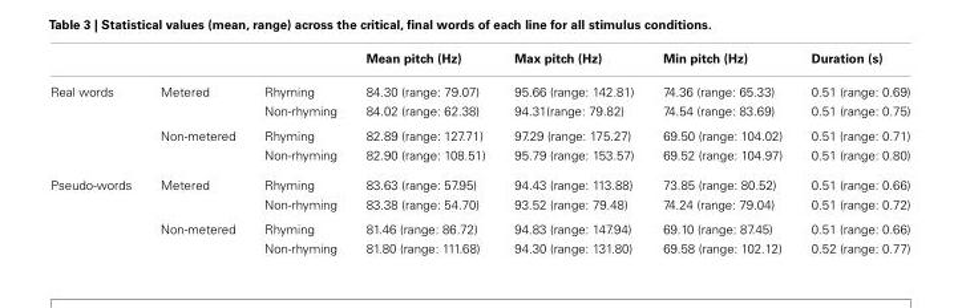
<table><thead><tr><td></td><td></td><td></td><td>Mean pitch (Hz)</td><td>Max pitch (Hz)</td><td>Min pitch (Hz)</td><td>Duration (s)</td></tr></thead><tbody><tr><td rowspan="4">Real words</td><td>Metered</td><td>Rhyming</td><td>84.30 (range: 79.07)</td><td>95.66 (range: 142.81)</td><td>74.36 (range: 65.33)</td><td>0.51 (range: 0.69)</td></tr><tr><td></td><td>Non-rhyming</td><td>84.02 (range: 62.38)</td><td>94.31(range: 79.82)</td><td>74.54 (range: 83.69)</td><td>0.51 (range: 0.75)</td></tr><tr><td>Non-metered</td><td>Rhyming</td><td>82.89 (range: 127.71)</td><td>97.29 (range: 175.27)</td><td>69.50 (range: 104.02)</td><td>0.51 (range: 0.71)</td></tr><tr><td></td><td>Non-rhyming</td><td>82.90 (range: 108.51)</td><td>95.79 (range: 153.57)</td><td>69.52 (range: 104.97)</td><td>0.51 (range: 0.80)</td></tr><tr><td rowspan="4">Pseudo-words</td><td>Metered</td><td>Rhyming</td><td>83.63 (range: 57.95)</td><td>94.43 (range: 113.88)</td><td>73.85 (range: 80.52)</td><td>0.51 (range: 0.66)</td></tr><tr><td></td><td>Non-rhyming</td><td>83.38 (range: 54.70)</td><td>93.52 (range: 79.48)</td><td>74.24 (range: 79.04)</td><td>0.51 (range: 0.72)</td></tr><tr><td>Non-metered</td><td>Rhyming</td><td>81.46 (range: 86.72)</td><td>94.83 (range: 147.94)</td><td>69.10 (range: 87.45)</td><td>0.51 (range: 0.66)</td></tr><tr><td></td><td>Non-rhyming</td><td>81.80 (range: 111.68)</td><td>94.30 (range: 131.80)</td><td>69.58 (range: 102.12)</td><td>0.52 (range: 0.77)</td></tr></tbody></table>